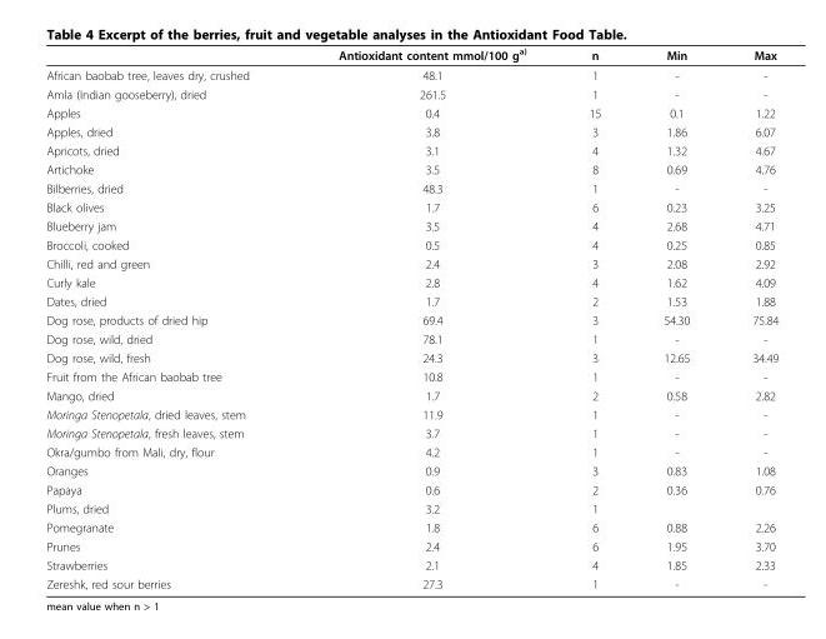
<table><thead><tr><td></td><td>Antioxidant content mmol/100 g<sup>a)</sup></td><td>n</td><td>Min</td><td>Max</td></tr></thead><tbody><tr><td>African baobab tree, leaves dry, crushed</td><td>48.1</td><td>1</td><td>-</td><td>-</td></tr><tr><td>Amla (Indian gooseberry), dried</td><td>261.5</td><td>1</td><td>-</td><td>-</td></tr><tr><td>Apples</td><td>0.4</td><td>15</td><td>0.1</td><td>1.22</td></tr><tr><td>Apples, dried</td><td>3.8</td><td>3</td><td>1.86</td><td>6.07</td></tr><tr><td>Apricots, dried</td><td>3.1</td><td>4</td><td>1.32</td><td>4.67</td></tr><tr><td>Artichoke</td><td>3.5</td><td>8</td><td>0.69</td><td>4.76</td></tr><tr><td>Bilberries, dried</td><td>48.3</td><td>1</td><td>-</td><td>-</td></tr><tr><td>Black olives</td><td>1.7</td><td>6</td><td>0.23</td><td>3.25</td></tr><tr><td>Blueberry jam</td><td>3.5</td><td>4</td><td>2.68</td><td>4.71</td></tr><tr><td>Broccoli, cooked</td><td>0.5</td><td>4</td><td>0.25</td><td>0.85</td></tr><tr><td>Chilli, red and green</td><td>2.4</td><td>3</td><td>2.08</td><td>2.92</td></tr><tr><td>Curly kale</td><td>2.8</td><td>4</td><td>1.62</td><td>4.09</td></tr><tr><td>Dates, dried</td><td>1.7</td><td>2</td><td>1.53</td><td>1.88</td></tr><tr><td>Dog rose, products of dried hip</td><td>69.4</td><td>3</td><td>54.30</td><td>75.84</td></tr><tr><td>Dog rose, wild, dried</td><td>78.1</td><td>1</td><td>-</td><td>-</td></tr><tr><td>Dog rose, wild, fresh</td><td>24.3</td><td>3</td><td>12.65</td><td>34.49</td></tr><tr><td>Fruit from the African baobab tree</td><td>10.8</td><td>1</td><td>-</td><td>-</td></tr><tr><td>Mango, dried</td><td>1.7</td><td>2</td><td>0.58</td><td>2.82</td></tr><tr><td>Moringa Stenopetala, dried leaves, stem</td><td>11.9</td><td>1</td><td>-</td><td>-</td></tr><tr><td>Moringa Stenopetala, fresh leaves, stem</td><td>3.7</td><td>1</td><td>-</td><td>-</td></tr><tr><td>Okra/gumbo from Mali, dry, flour</td><td>4.2</td><td>1</td><td>-</td><td>-</td></tr><tr><td>Oranges</td><td>0.9</td><td>3</td><td>0.83</td><td>1.08</td></tr><tr><td>Papaya</td><td>0.6</td><td>2</td><td>0.36</td><td>0.76</td></tr><tr><td>Plums, dried</td><td>3.2</td><td>1</td><td></td><td></td></tr><tr><td>Pomegranate</td><td>1.8</td><td>6</td><td>0.88</td><td>2.26</td></tr><tr><td>Prunes</td><td>2.4</td><td>6</td><td>1.95</td><td>3.70</td></tr><tr><td>Strawberries</td><td>2.1</td><td>4</td><td>1.85</td><td>2.33</td></tr><tr><td>Zereshk, red sour berries</td><td>27.3</td><td>1</td><td>-</td><td>-</td></tr></tbody></table>